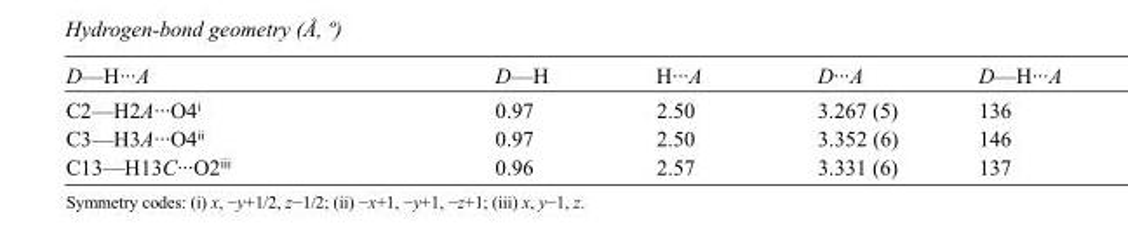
<table><tbody><tr><td>D—H···A</td><td>D—H</td><td>H···A</td><td>D···A</td><td>D—H···A</td></tr><tr><td>C2—H2A···O4<sup>i</sup></td><td>0.97</td><td>2.50</td><td>3.267 (5)</td><td>136</td></tr><tr><td>C3—H3A···O4<sup>ii</sup></td><td>0.97</td><td>2.50</td><td>3.352 (6)</td><td>146</td></tr><tr><td>C13—H13C···O2<sup>iii</sup></td><td>0.96</td><td>2.57</td><td>3.331 (6)</td><td>137</td></tr></tbody></table>